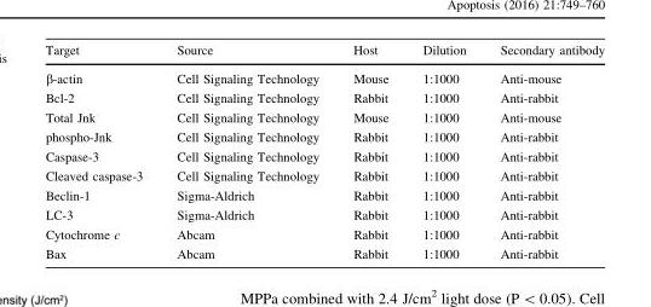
<table><thead><tr><td>Target</td><td>Source</td><td>Host</td><td>Dilution</td><td>Secondary antibody</td></tr></thead><tbody><tr><td>β-actin</td><td>Cell Signaling Technology</td><td>Mouse</td><td>1:1000</td><td>Anti-mouse</td></tr><tr><td>Bcl-2</td><td>Cell Signaling Technology</td><td>Rabbit</td><td>1:1000</td><td>Anti-rabbit</td></tr><tr><td>Total Jnk</td><td>Cell Signaling Technology</td><td>Mouse</td><td>1:1000</td><td>Anti-mouse</td></tr><tr><td>phospho-Jnk</td><td>Cell Signaling Technology</td><td>Rabbit</td><td>1:1000</td><td>Anti-rabbit</td></tr><tr><td>Caspase-3</td><td>Cell Signaling Technology</td><td>Rabbit</td><td>1:1000</td><td>Anti-rabbit</td></tr><tr><td>Cleaved caspase-3</td><td>Cell Signaling Technology</td><td>Rabbit</td><td>1:1000</td><td>Anti-rabbit</td></tr><tr><td>Beclin-1</td><td>Sigma-Aldrich</td><td>Rabbit</td><td>1:1000</td><td>Anti-rabbit</td></tr><tr><td>LC-3</td><td>Sigma-Aldrich</td><td>Rabbit</td><td>1:1000</td><td>Anti-rabbit</td></tr><tr><td>Cytochrome c</td><td>Abcam</td><td>Rabbit</td><td>1:1000</td><td>Anti-rabbit</td></tr><tr><td>Bax</td><td>Abcam</td><td>Rabbit</td><td>1:1000</td><td>Anti-rabbit</td></tr></tbody></table>